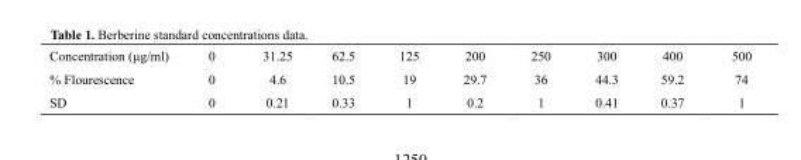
<table><thead><tr><td>Concentration (µg/ml)</td><td>0</td><td>31.25</td><td>62.5</td><td>125</td><td>200</td><td>250</td><td>300</td><td>400</td><td>500</td></tr></thead><tbody><tr><td>% Flourescence</td><td>0</td><td>4.6</td><td>10.5</td><td>19</td><td>29.7</td><td>36</td><td>44.3</td><td>59.2</td><td>74</td></tr><tr><td>SD</td><td>0</td><td>0.21</td><td>0.33</td><td>1</td><td>0.2</td><td>1</td><td>0.41</td><td>0.37</td><td>1</td></tr></tbody></table>